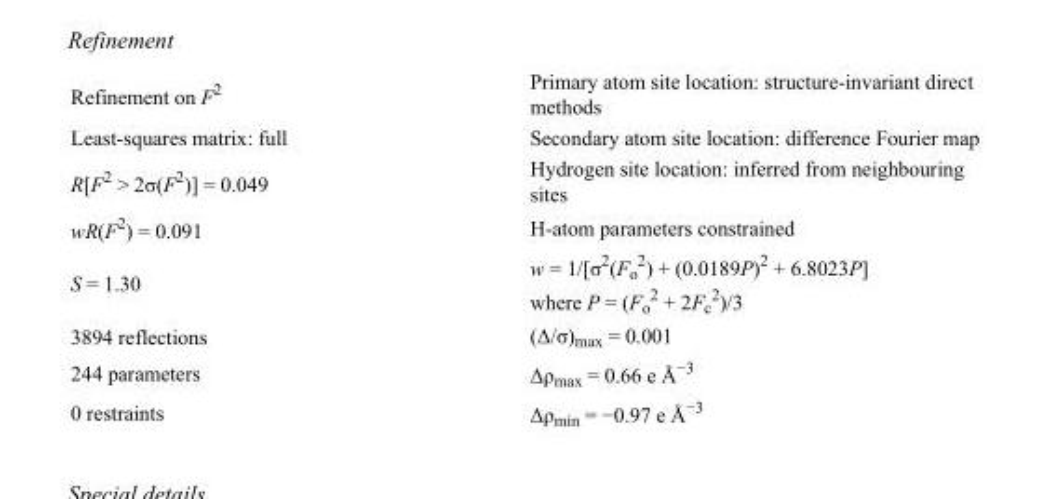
<table><tbody><tr><td>Refinement on F<sup>2</sup></td><td>Primary atom site location: structure-invariant direct methods</td></tr><tr><td>Least-squares matrix: full</td><td>Secondary atom site location: difference Fourier map</td></tr><tr><td>R[F<sup>2</sup> &gt; 2σ(F<sup>2</sup>)] = 0.049</td><td>Hydrogen site location: inferred from neighbouring sites</td></tr><tr><td>wR(F<sup>2</sup>) = 0.091</td><td>H-atom parameters constrained</td></tr><tr><td>S = 1.30</td><td>w = 1/[σ<sup>2</sup>(F<sub>o</sub> <sup>2</sup>) + (0.0189P)<sup>2</sup> + 6.8023P] where P = (F<sub>o</sub> <sup>2</sup> + 2F<sub>c</sub> <sup>2</sup>)/3</td></tr><tr><td>3894 reflections</td><td>(Δ/σ)<sub>max</sub> = 0.001</td></tr><tr><td>244 parameters</td><td>Δρ<sub>max</sub> = 0.66 e Å<sup>−3</sup></td></tr><tr><td>0 restraints</td><td>Δρ<sub>min</sub> = −0.97 e Å<sup>−3</sup></td></tr></tbody></table>